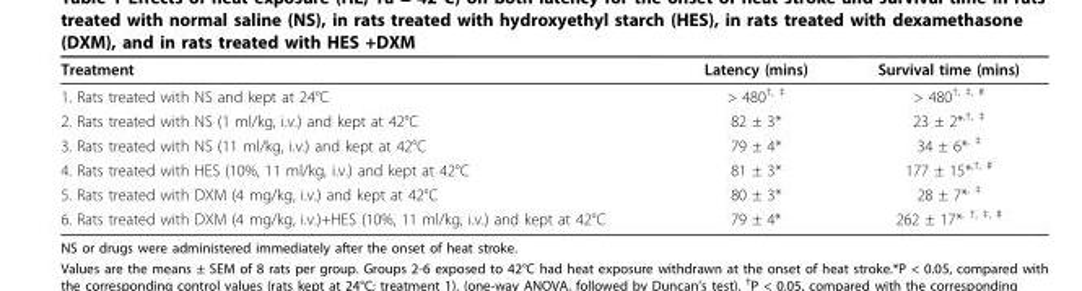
<table><thead><tr><td>Treatment</td><td>Latency (mins)</td><td>Survival time (mins)</td></tr></thead><tbody><tr><td>1. Rats treated with NS and kept at 24°C</td><td>&gt; 480<sup>†, ‡</sup></td><td>&gt; 480<sup>†, ‡, #</sup></td></tr><tr><td>2. Rats treated with NS (1 ml/kg, i.v.) and kept at 42°C</td><td>82 ± 3*</td><td>23 ± 2*<sup>,†, ‡</sup></td></tr><tr><td>3. Rats treated with NS (11 ml/kg, i.v.) and kept at 42°C</td><td>79 ± 4*</td><td>34 ± 6*<sup>, ‡</sup></td></tr><tr><td>4. Rats treated with HES (10%, 11 ml/kg, i.v.) and kept at 42°C</td><td>81 ± 3*</td><td>177 ± 15*<sup>,†, #</sup></td></tr><tr><td>5. Rats treated with DXM (4 mg/kg, i.v.) and kept at 42°C</td><td>80 ± 3*</td><td>28 ± 7*<sup>, ‡</sup></td></tr><tr><td>6. Rats treated with DXM (4 mg/kg, i.v.)+HES (10%, 11 ml/kg, i.v.) and kept at 42°C</td><td>79 ± 4*</td><td>262 ± 17*<sup>, †, ‡, #</sup></td></tr></tbody></table>